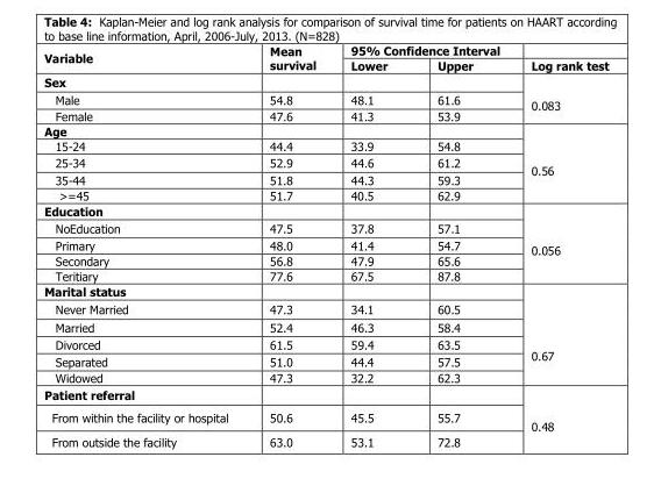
<table><thead><tr><td rowspan="2">Variable</td><td rowspan="2">Mean survival</td><td colspan="2">95% Confidence Interval</td><td rowspan="2">Log rank test</td></tr><tr><td>Lower</td><td>Upper</td></tr></thead><tbody><tr><td colspan="4">Sex</td><td rowspan="3">0.083</td></tr><tr><td>Male</td><td>54.8</td><td>48.1</td><td>61.6</td></tr><tr><td>Female</td><td>47.6</td><td>41.3</td><td>53.9</td></tr><tr><td colspan="4">Age</td><td rowspan="5">0.56</td></tr><tr><td>15-24</td><td>44.4</td><td>33.9</td><td>54.8</td></tr><tr><td>25-34</td><td>52.9</td><td>44.6</td><td>61.2</td></tr><tr><td>35-44</td><td>51.8</td><td>44.3</td><td>59.3</td></tr><tr><td>&gt;=45</td><td>51.7</td><td>40.5</td><td>62.9</td></tr><tr><td colspan="4">Education</td><td rowspan="5">0.056</td></tr><tr><td>NoEducation</td><td>47.5</td><td>37.8</td><td>57.1</td></tr><tr><td>Primary</td><td>48.0</td><td>41.4</td><td>54.7</td></tr><tr><td>Secondary</td><td>56.8</td><td>47.9</td><td>65.6</td></tr><tr><td>Teritiary</td><td>77.6</td><td>67.5</td><td>87.8</td></tr><tr><td colspan="4">Marital status</td><td rowspan="6">0.67</td></tr><tr><td>Never Married</td><td>47.3</td><td>34.1</td><td>60.5</td></tr><tr><td>Married</td><td>52.4</td><td>46.3</td><td>58.4</td></tr><tr><td>Divorced</td><td>61.5</td><td>59.4</td><td>63.5</td></tr><tr><td>Separated</td><td>51.0</td><td>44.4</td><td>57.5</td></tr><tr><td>Widowed</td><td>47.3</td><td>32.2</td><td>62.3</td></tr><tr><td colspan="4">Patient referral</td><td rowspan="3">0.48</td></tr><tr><td>From within the facility or hospital</td><td>50.6</td><td>45.5</td><td>55.7</td></tr><tr><td>From outside the facility</td><td>63.0</td><td>53.1</td><td>72.8</td></tr></tbody></table>